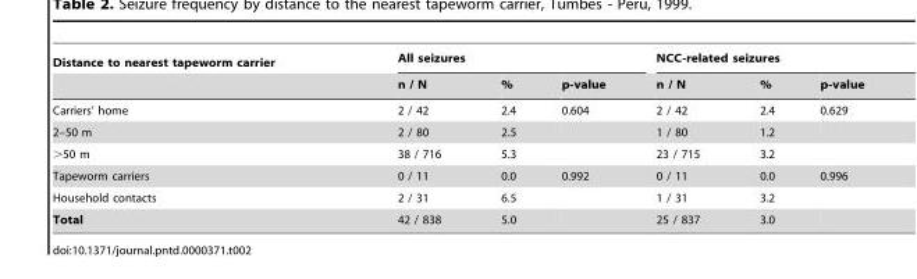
<table><thead><tr><td rowspan="2">Distance to nearest tapeworm carrier</td><td colspan="3">All seizures</td><td colspan="3">NCC-related seizures</td></tr><tr><td>n / N</td><td>%</td><td>p-value</td><td>n / N</td><td>%</td><td>p-value</td></tr></thead><tbody><tr><td>Carriers’ home</td><td>2 / 42</td><td>2.4</td><td>0.604</td><td>2 / 42</td><td>2.4</td><td>0.629</td></tr><tr><td>2–50 m</td><td>2 / 80</td><td>2.5</td><td></td><td>1 / 80</td><td>1.2</td><td></td></tr><tr><td>&gt;50 m</td><td>38 / 716</td><td>5.3</td><td></td><td>23 / 715</td><td>3.2</td><td></td></tr><tr><td>Tapeworm carriers</td><td>0 / 11</td><td>0.0</td><td>0.992</td><td>0 / 11</td><td>0.0</td><td>0.996</td></tr><tr><td>Household contacts</td><td>2 / 31</td><td>6.5</td><td></td><td>1 / 31</td><td>3.2</td><td></td></tr><tr><td>Total</td><td>42 / 838</td><td>5.0</td><td></td><td>25 / 837</td><td>3.0</td><td></td></tr></tbody></table>